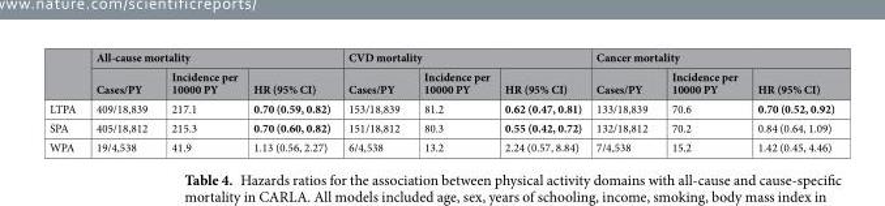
<table><thead><tr><td rowspan="2"></td><td colspan="3">All-cause mortality</td><td colspan="3">CVD mortality</td><td colspan="3">Cancer mortality</td></tr><tr><td>Cases/PY</td><td>Incidence per 10000 PY</td><td>HR (95% CI)</td><td>Cases/PY</td><td>Incidence per 10000 PY</td><td>HR (95% CI)</td><td>Cases/PY</td><td>Incidence per 10000 PY</td><td>HR (95% CI)</td></tr></thead><tbody><tr><td>LTPA</td><td>409/18,839</td><td>217.1</td><td>0.70 (0.59, 0.82)</td><td>153/18,839</td><td>81.2</td><td>0.62 (0.47, 0.81)</td><td>133/18,839</td><td>70.6</td><td>0.70 (0.52, 0.92)</td></tr><tr><td>SPA</td><td>405/18,812</td><td>215.3</td><td>0.70 (0.60, 0.82)</td><td>151/18,812</td><td>80.3</td><td>0.55 (0.42, 0.72)</td><td>132/18,812</td><td>70.2</td><td>0.84 (0.64, 1.09)</td></tr><tr><td>WPA</td><td>19/4,538</td><td>41.9</td><td>1.13 (0.56, 2.27)</td><td>6/4,538</td><td>13.2</td><td>2.24 (0.57, 8.84)</td><td>7/4,538</td><td>15.2</td><td>1.42 (0.45, 4.46)</td></tr></tbody></table>